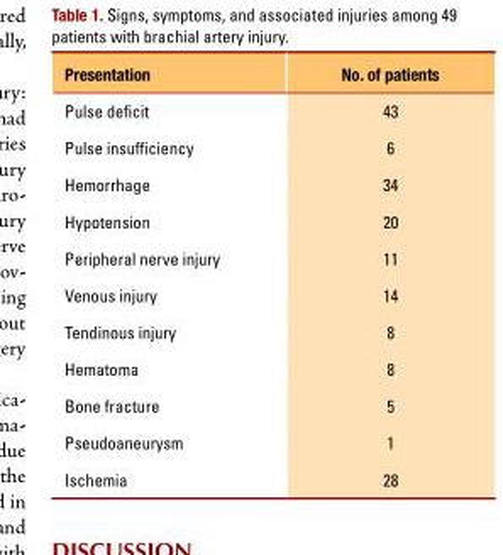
<table><thead><tr><td>Presentation</td><td>No. of patients</td></tr></thead><tbody><tr><td>Pulse deficit</td><td>43</td></tr><tr><td>Pulse insufficiency</td><td>6</td></tr><tr><td>hemorrhage</td><td>34</td></tr><tr><td>hypotension</td><td>20</td></tr><tr><td>Peripheral nerve injury</td><td>11</td></tr><tr><td>Venous injury</td><td>14</td></tr><tr><td>tendinous injury</td><td>8</td></tr><tr><td>hematoma</td><td>8</td></tr><tr><td>bone fracture</td><td>5</td></tr><tr><td>Pseudoaneurysm</td><td>1</td></tr><tr><td>ischemia</td><td>28</td></tr></tbody></table>